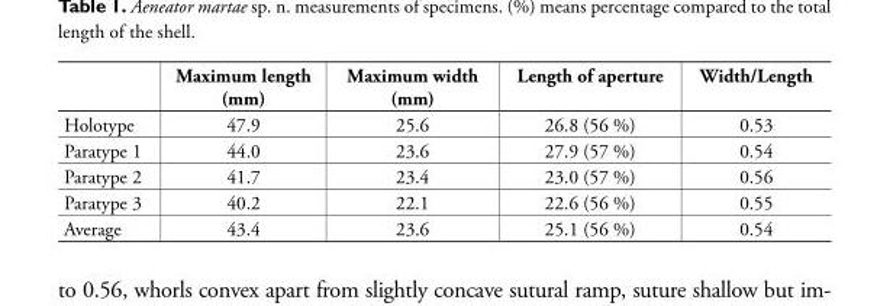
<table><thead><tr><td></td><td>Maximum length (mm)</td><td>Maximum width (mm)</td><td>Length of aperture</td><td>Width/Length</td></tr></thead><tbody><tr><td>Holotype</td><td>47.9</td><td>25.6</td><td>26.8 (56 %)</td><td>0.53</td></tr><tr><td>Paratype 1</td><td>44.0</td><td>23.6</td><td>27.9 (57 %)</td><td>0.54</td></tr><tr><td>Paratype 2</td><td>41.7</td><td>23.4</td><td>23.0 (57 %)</td><td>0.56</td></tr><tr><td>Paratype 3</td><td>40.2</td><td>22.1</td><td>22.6 (56 %)</td><td>0.55</td></tr><tr><td>Average</td><td>43.4</td><td>23.6</td><td>25.1 (56 %)</td><td>0.54</td></tr></tbody></table>